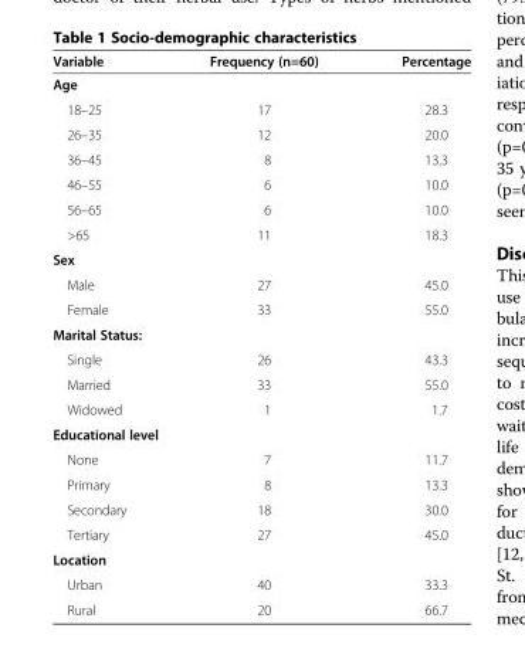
<table><thead><tr><td>Variable</td><td>Frequency (n=60)</td><td>Percentage</td></tr></thead><tbody><tr><td colspan="3">Age</td></tr><tr><td>18–25</td><td>17</td><td>28.3</td></tr><tr><td>26–35</td><td>12</td><td>20.0</td></tr><tr><td>36–45</td><td>8</td><td>13.3</td></tr><tr><td>46–55</td><td>6</td><td>10.0</td></tr><tr><td>56–65</td><td>6</td><td>10.0</td></tr><tr><td>&gt;65</td><td>11</td><td>18.3</td></tr><tr><td colspan="3">Sex</td></tr><tr><td>Male</td><td>27</td><td>45.0</td></tr><tr><td>Female</td><td>33</td><td>55.0</td></tr><tr><td colspan="3">Marital Status:</td></tr><tr><td>Single</td><td>26</td><td>43.3</td></tr><tr><td>Married</td><td>33</td><td>55.0</td></tr><tr><td>Widowed</td><td>1</td><td>1.7</td></tr><tr><td colspan="3">Educational level</td></tr><tr><td>None</td><td>7</td><td>11.7</td></tr><tr><td>Primary</td><td>8</td><td>13.3</td></tr><tr><td>Secondary</td><td>18</td><td>30.0</td></tr><tr><td>Tertiary</td><td>27</td><td>45.0</td></tr><tr><td colspan="3">Location</td></tr><tr><td>Urban</td><td>40</td><td>33.3</td></tr><tr><td>Rural</td><td>20</td><td>66.7</td></tr></tbody></table>